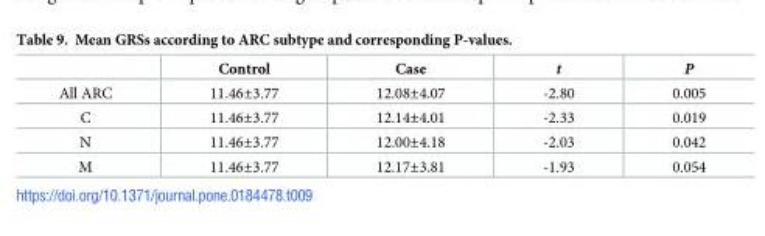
<table><thead><tr><td></td><td>Control</td><td>Case</td><td>t</td><td>P</td></tr></thead><tbody><tr><td>All ARC</td><td>11.46±3.77</td><td>12.08±4.07</td><td>-2.80</td><td>0.005</td></tr><tr><td>C</td><td>11.46±3.77</td><td>12.14±4.01</td><td>-2.33</td><td>0.019</td></tr><tr><td>N</td><td>11.46±3.77</td><td>12.00±4.18</td><td>-2.03</td><td>0.042</td></tr><tr><td>M</td><td>11.46±3.77</td><td>12.17±3.81</td><td>-1.93</td><td>0.054</td></tr></tbody></table>